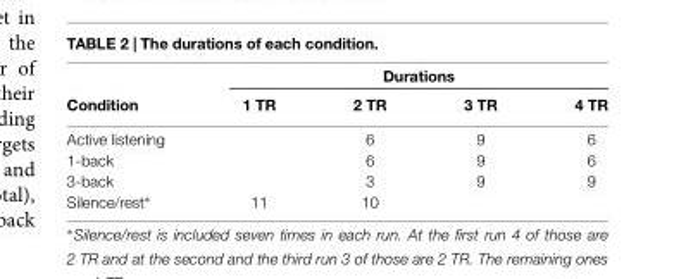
<table><thead><tr><td rowspan="2">Condition</td><td colspan="4">Durations</td></tr><tr><td>1 TR</td><td>2 TR</td><td>3 TR</td><td>4 TR</td></tr></thead><tbody><tr><td>Active listening</td><td></td><td>6</td><td>9</td><td>6</td></tr><tr><td>1-back</td><td></td><td>6</td><td>9</td><td>6</td></tr><tr><td>3-back</td><td></td><td>3</td><td>9</td><td>9</td></tr><tr><td>Silence/rest∗</td><td>11</td><td>10</td><td></td><td></td></tr></tbody></table>